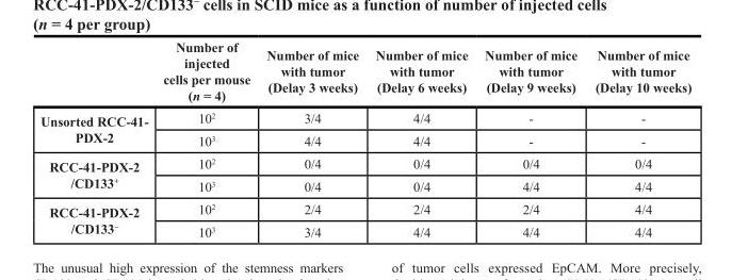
<table><thead><tr><td></td><td>Number of injected cells per mouse (n = 4)</td><td>Number of mice with tumor (Delay 3 weeks)</td><td>Number of mice with tumor (Delay 6 weeks)</td><td>Number of mice with tumor (Delay 9 weeks)</td><td>Number of mice with tumor (Delay 10 weeks)</td></tr></thead><tbody><tr><td rowspan="2">Unsorted RCC-41- PDX-2</td><td>10<sup>2</sup></td><td>3/4</td><td>4/4</td><td>-</td><td>-</td></tr><tr><td>10<sup>3</sup></td><td>4/4</td><td>4/4</td><td>-</td><td>-</td></tr><tr><td rowspan="2">RCC-41-PDX-2 /CD133<sup>+</sup></td><td>10<sup>2</sup></td><td>0/4</td><td>0/4</td><td>0/4</td><td>0/4</td></tr><tr><td>10<sup>3</sup></td><td>0/4</td><td>0/4</td><td>4/4</td><td>4/4</td></tr><tr><td rowspan="2">RCC-41-PDX-2 /CD133<sup>–</sup></td><td>10<sup>2</sup></td><td>2/4</td><td>2/4</td><td>2/4</td><td>4/4</td></tr><tr><td>10<sup>3</sup></td><td>3/4</td><td>4/4</td><td>4/4</td><td>4/4</td></tr></tbody></table>